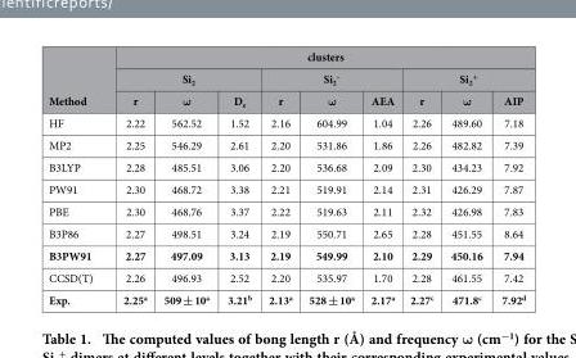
<table><thead><tr><td rowspan="3">Method</td><td colspan="9">clusters</td></tr><tr><td colspan="3">Si<sub>2</sub></td><td colspan="3">Si<sub>2</sub> <sup>–</sup></td><td colspan="3">Si<sub>2</sub> <sup>+</sup></td></tr><tr><td>r</td><td>ω</td><td>D<sub>e</sub></td><td>r</td><td>ω</td><td>AEA</td><td>r</td><td>ω</td><td>AIP</td></tr></thead><tbody><tr><td>HF</td><td>2.22</td><td>562.52</td><td>1.52</td><td>2.16</td><td>604.99</td><td>1.04</td><td>2.26</td><td>489.60</td><td>7.18</td></tr><tr><td>MP2</td><td>2.25</td><td>546.29</td><td>2.61</td><td>2.20</td><td>531.86</td><td>1.86</td><td>2.26</td><td>482.82</td><td>7.39</td></tr><tr><td>B3LYP</td><td>2.28</td><td>485.51</td><td>3.06</td><td>2.20</td><td>536.68</td><td>2.09</td><td>2.30</td><td>434.23</td><td>7.92</td></tr><tr><td>PW91</td><td>2.30</td><td>468.72</td><td>3.38</td><td>2.21</td><td>519.91</td><td>2.14</td><td>2.31</td><td>426.29</td><td>7.87</td></tr><tr><td>PBE</td><td>2.30</td><td>468.76</td><td>3.37</td><td>2.22</td><td>519.63</td><td>2.11</td><td>2.32</td><td>426.98</td><td>7.83</td></tr><tr><td>B3P86</td><td>2.27</td><td>498.51</td><td>3.24</td><td>2.19</td><td>550.71</td><td>2.65</td><td>2.28</td><td>451.55</td><td>8.64</td></tr><tr><td>B3PW91</td><td>2.27</td><td>497.09</td><td>3.13</td><td>2.19</td><td>549.99</td><td>2.10</td><td>2.29</td><td>450.16</td><td>7.94</td></tr><tr><td>CCSD(T)</td><td>2.26</td><td>496.93</td><td>2.52</td><td>2.20</td><td>535.97</td><td>1.70</td><td>2.28</td><td>461.55</td><td>7.42</td></tr><tr><td>Exp.</td><td>2.25<sup>a</sup></td><td>509 ± 10<sup>a</sup></td><td>3.21<sup>b</sup></td><td>2.13<sup>a</sup></td><td>528 ± 10<sup>a</sup></td><td>2.17<sup>a</sup></td><td>2.27<sup>c</sup></td><td>471.8<sup>c</sup></td><td>7.92<sup>d</sup></td></tr></tbody></table>